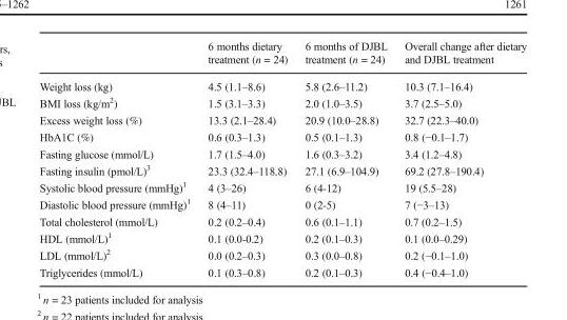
<table><thead><tr><td></td><td>6 months dietary treatment (n = 24)</td><td>6 months of DJBL treatment (n = 24)</td><td>Overall change after dietary and DJBL treatment</td></tr></thead><tbody><tr><td>Weight loss (kg)</td><td>4.5 (1.1–8.6)</td><td>5.8 (2.6–11.2)</td><td>10.3 (7.1–16.4)</td></tr><tr><td>BMI loss (kg/m<sup>2</sup>)</td><td>1.5 (3.1–3.3)</td><td>2.0 (1.0–3.5)</td><td>3.7 (2.5–5.0)</td></tr><tr><td>Excess weight loss (%)</td><td>13.3 (2.1–28.4)</td><td>20.9 (10.0–28.8)</td><td>32.7 (22.3–40.0)</td></tr><tr><td>HbA1C (%)</td><td>0.6 (0.3–1.3)</td><td>0.5 (0.1–1.3)</td><td>0.8 (−0.1–1.7)</td></tr><tr><td>Fasting glucose (mmol/L)</td><td>1.7 (1.5–4.0)</td><td>1.6 (0.3–3.2)</td><td>3.4 (1.2–4.8)</td></tr><tr><td>Fasting insulin (pmol/L)<sup>3</sup></td><td>23.3 (32.4–118.8)</td><td>27.1 (6.9–104.9)</td><td>69.2 (27.8–190.4)</td></tr><tr><td>Systolic blood pressure (mmHg)<sup>1</sup></td><td>4 (3–26)</td><td>6 (4-12)</td><td>19 (5.5–28)</td></tr><tr><td>Diastolic blood pressure (mmHg)<sup>1</sup></td><td>8 (4–11)</td><td>0 (2-5)</td><td>7 (−3–13)</td></tr><tr><td>Total cholesterol (mmol/L)</td><td>0.2 (0.2–0.4)</td><td>0.6 (0.1–1.1)</td><td>0.7 (0.2–1.5)</td></tr><tr><td>HDL (mmol/L)<sup>1</sup></td><td>0.1 (0.0-0.2)</td><td>0.2 (0.1–0.3)</td><td>0.1 (0.0–0.29)</td></tr><tr><td>LDL (mmol/L)<sup>2</sup></td><td>0.0 (0.2–0.3)</td><td>0.3 (0.0–0.8)</td><td>0.2 (−0.1–1.0)</td></tr><tr><td>Triglycerides (mmol/L)</td><td>0.1 (0.3–0.8)</td><td>0.2 (0.1–0.3)</td><td>0.4 (−0.4–1.0)</td></tr></tbody></table>